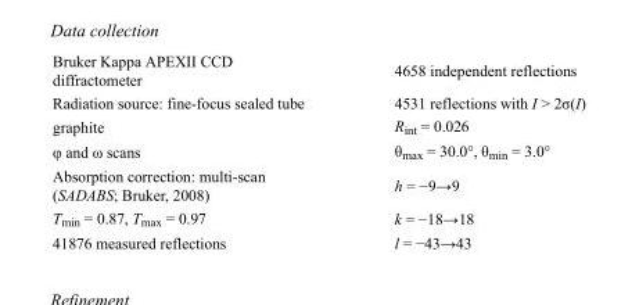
<table><tbody><tr><td>Bruker Kappa APEXII CCD diffractometer</td><td>4658 independent reflections</td></tr><tr><td>Radiation source: fine-focus sealed tube</td><td>4531 reflections with I &gt; 2σ(I)</td></tr><tr><td>graphite</td><td>R<sub>int</sub> = 0.026</td></tr><tr><td>φ and ω scans</td><td>θ<sub>max</sub> = 30.0°, θ<sub>min</sub> = 3.0°</td></tr><tr><td>Absorption correction: multi-scan (SADABS; Bruker, 2008)</td><td>h = −9→9</td></tr><tr><td>T<sub>min</sub> = 0.87, T<sub>max</sub> = 0.97</td><td>k = −18→18</td></tr><tr><td>41876 measured reflections</td><td>l = −43→43</td></tr></tbody></table>